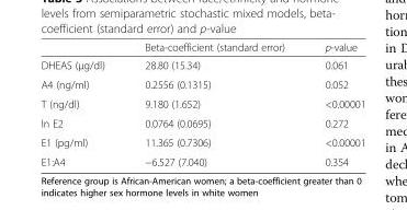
<table><thead><tr><td></td><td>Beta-coefficient (standard error)</td><td>p-value</td></tr></thead><tbody><tr><td>DHEAS (μg/dl)</td><td>28.80 (15.34)</td><td>0.061</td></tr><tr><td>A4 (ng/ml)</td><td>0.2556 (0.1315)</td><td>0.052</td></tr><tr><td>T (ng/dl)</td><td>9.180 (1.652)</td><td>&lt;0.00001</td></tr><tr><td>ln E2</td><td>0.0764 (0.0695)</td><td>0.272</td></tr><tr><td>E1 (pg/ml)</td><td>11.365 (0.7306)</td><td>&lt;0.00001</td></tr><tr><td>E1:A4</td><td>−6.527 (7.040)</td><td>0.354</td></tr></tbody></table>